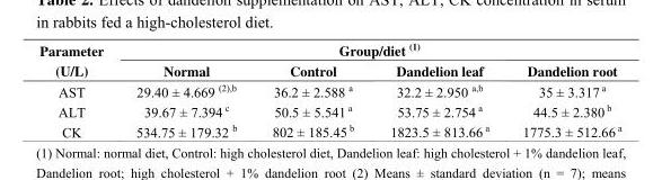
<table><thead><tr><td rowspan="2">Parameter (U/L)</td><td colspan="4">Group/diet <sup>(1)</sup></td></tr><tr><td>Normal</td><td>Control</td><td>Dandelion leaf</td><td>Dandelion root</td></tr></thead><tbody><tr><td>AST</td><td>29.40 ± 4.669 <sup>(2),b</sup></td><td>36.2 ± 2.588 <sup>a</sup></td><td>32.2 ± 2.950 <sup>a,b</sup></td><td>35 ± 3.317 <sup>a</sup></td></tr><tr><td>ALT</td><td>39.67 ± 7.394 <sup>c</sup></td><td>50.5 ± 5.541 <sup>a</sup></td><td>53.75 ± 2.754 <sup>a</sup></td><td>44.5 ± 2.380 <sup>b</sup></td></tr><tr><td>CK</td><td>534.75 ± 179.32 <sup>b</sup></td><td>802 ± 185.45 <sup>b</sup></td><td>1823.5 ± 813.66 <sup>a</sup></td><td>1775.3 ± 512.66 <sup>a</sup></td></tr></tbody></table>